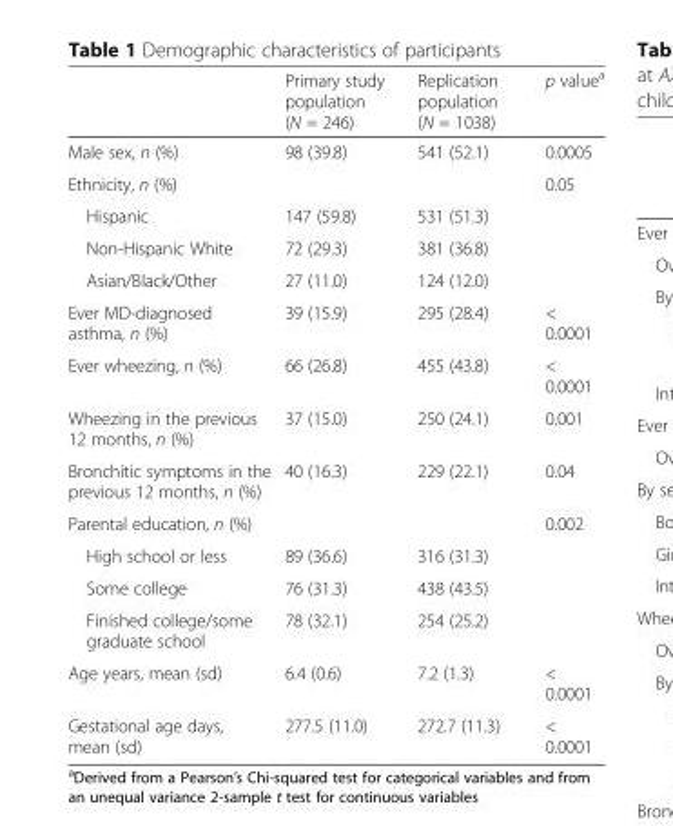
<table><thead><tr><td></td><td>Primary study population (N = 246)</td><td>Replication population (N = 1038)</td><td>p value<sup>a</sup></td></tr></thead><tbody><tr><td>Male sex, n (%)</td><td>98 (39.8)</td><td>541 (52.1)</td><td>0.0005</td></tr><tr><td>Ethnicity, n (%)</td><td></td><td></td><td>0.05</td></tr><tr><td>Hispanic</td><td>147 (59.8)</td><td>531 (51.3)</td><td></td></tr><tr><td>Non-Hispanic White</td><td>72 (29.3)</td><td>381 (36.8)</td><td></td></tr><tr><td>Asian/Black/Other</td><td>27 (11.0)</td><td>124 (12.0)</td><td></td></tr><tr><td>Ever MD-diagnosed asthma, n (%)</td><td>39 (15.9)</td><td>295 (28.4)</td><td>&lt; 0.0001</td></tr><tr><td>Ever wheezing, n (%)</td><td>66 (26.8)</td><td>455 (43.8)</td><td>&lt; 0.0001</td></tr><tr><td>Wheezing in the previous 12 months, n (%)</td><td>37 (15.0)</td><td>250 (24.1)</td><td>0.001</td></tr><tr><td>Bronchitic symptoms in the previous 12 months, n (%)</td><td>40 (16.3)</td><td>229 (22.1)</td><td>0.04</td></tr><tr><td>Parental education, n (%)</td><td></td><td></td><td>0.002</td></tr><tr><td>High school or less</td><td>89 (36.6)</td><td>316 (31.3)</td><td></td></tr><tr><td>Some college</td><td>76 (31.3)</td><td>438 (43.5)</td><td></td></tr><tr><td>Finished college/some graduate school</td><td>78 (32.1)</td><td>254 (25.2)</td><td></td></tr><tr><td>Age years, mean (sd)</td><td>6.4 (0.6)</td><td>7.2 (1.3)</td><td>&lt; 0.0001</td></tr><tr><td>Gestational age days, mean (sd)</td><td>277.5 (11.0)</td><td>272.7 (11.3)</td><td>&lt; 0.0001</td></tr></tbody></table>